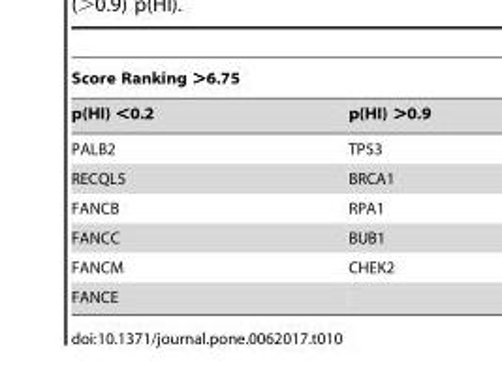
<table><thead><tr><td colspan="2">Score Ranking &gt;6.75</td></tr><tr><td>p(HI) &lt;0.2</td><td>p(HI) &gt;0.9</td></tr></thead><tbody><tr><td>PALB2</td><td>TP53</td></tr><tr><td>RECQL5</td><td>BRCA1</td></tr><tr><td>FANCB</td><td>RPA1</td></tr><tr><td>FANCC</td><td>BUB1</td></tr><tr><td>FANCM</td><td>CHEK2</td></tr><tr><td>FANCE</td><td></td></tr></tbody></table>